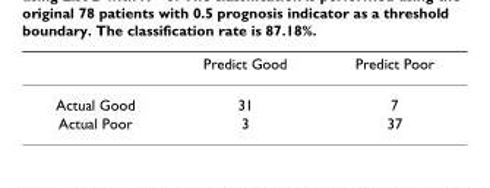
<table><thead><tr><td></td><td>Predict Good</td><td>Predict Poor</td></tr></thead><tbody><tr><td>Actual Good</td><td>31</td><td>7</td></tr><tr><td>Actual Poor</td><td>3</td><td>37</td></tr></tbody></table>